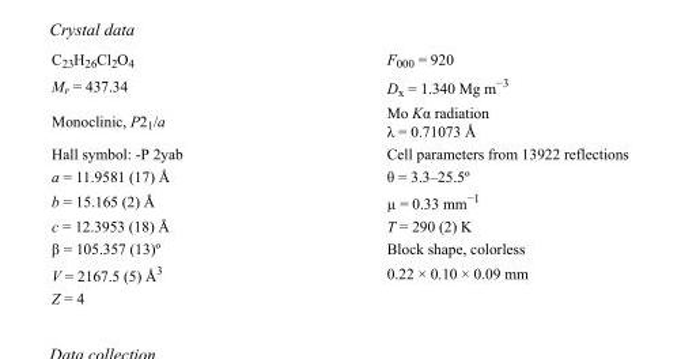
<table><tbody><tr><td>C<sub>23</sub>H<sub>26</sub>Cl<sub>2</sub>O<sub>4</sub></td><td>F<sub>000</sub> = 920</td></tr><tr><td>M<sub>r</sub> = 437.34</td><td>D<sub>x</sub> = 1.340 Mg m<sup>−3</sup></td></tr><tr><td>Monoclinic, P2<sub>1</sub>/a</td><td>Mo Kα radiation λ = 0.71073 Å</td></tr><tr><td>Hall symbol: -P 2yab</td><td>Cell parameters from 13922 reflections</td></tr><tr><td>a = 11.9581 (17) Å</td><td>θ = 3.3–25.5º</td></tr><tr><td>b = 15.165 (2) Å</td><td>µ = 0.33 mm<sup>−1</sup></td></tr><tr><td>c = 12.3953 (18) Å</td><td>T = 290 (2) K</td></tr><tr><td>β = 105.357 (13)º</td><td>Block shape, colorless</td></tr><tr><td>V = 2167.5 (5) Å<sup>3</sup></td><td>0.22 × 0.10 × 0.09 mm</td></tr><tr><td>Z = 4</td><td></td></tr></tbody></table>